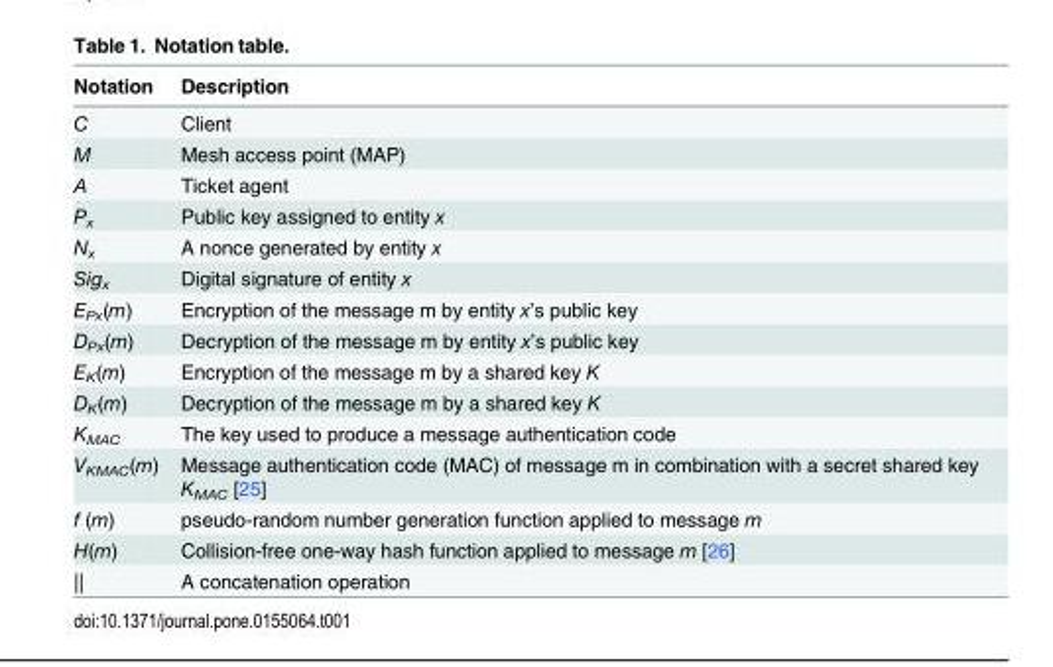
<table><thead><tr><td>Notation</td><td>Description</td></tr></thead><tbody><tr><td>C</td><td>Client</td></tr><tr><td>M</td><td>Mesh access point (MAP)</td></tr><tr><td>A</td><td>Ticket agent</td></tr><tr><td>P<sub>x</sub></td><td>Public key assigned to entity x</td></tr><tr><td>N<sub>x</sub></td><td>A nonce generated by entity x</td></tr><tr><td>Sig<sub>x</sub></td><td>Digital signature of entity x</td></tr><tr><td>E<sub>Px</sub>(m)</td><td>Encryption of the message m by entity x’s public key</td></tr><tr><td>D<sub>Px</sub>(m)</td><td>Decryption of the message m by entity x’s public key</td></tr><tr><td>E<sub>K</sub>(m)</td><td>Encryption of the message m by a shared key K</td></tr><tr><td>D<sub>K</sub>(m)</td><td>Decryption of the message m by a shared key K</td></tr><tr><td>K<sub>MAC</sub></td><td>The key used to produce a message authentication code</td></tr><tr><td>V<sub>KMAC</sub>(m)</td><td>Message authentication code (MAC) of message m in combination with a secret shared key K<sub>MAC</sub> [25]</td></tr><tr><td>f (m)</td><td>pseudo-random number generation function applied to message m</td></tr><tr><td>H(m)</td><td>Collision-free one-way hash function applied to message m [26]</td></tr><tr><td>||</td><td>A concatenation operation</td></tr></tbody></table>